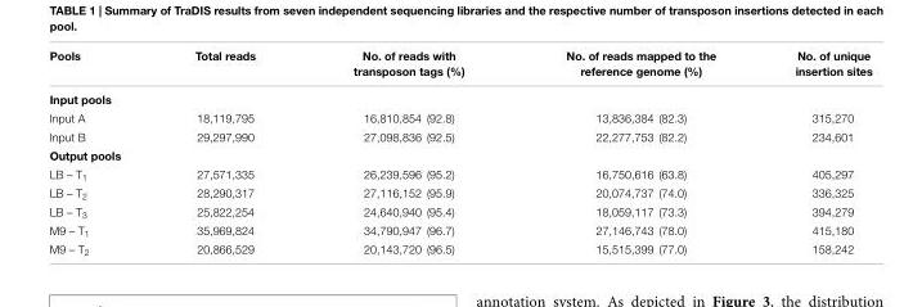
<table><thead><tr><td>Pools</td><td>Total reads</td><td>No. of reads with transposon tags (%)</td><td>No. of reads mapped to the reference genome (%)</td><td>No. of unique insertion sites</td></tr></thead><tbody><tr><td colspan="5">Input pools</td></tr><tr><td>Input A</td><td>18,119,795</td><td>16,810,854 (92.8)</td><td>13,836,384 (82.3)</td><td>315,270</td></tr><tr><td>Input B</td><td>29,297,990</td><td>27,098,836 (92.5)</td><td>22,277,753 (82.2)</td><td>234,601</td></tr><tr><td colspan="5">Output pools</td></tr><tr><td>LB – T<sub>1</sub></td><td>27,571,335</td><td>26,239,596 (95.2)</td><td>16,750,616 (63.8)</td><td>405,297</td></tr><tr><td>LB – T<sub>2</sub></td><td>28,290,317</td><td>27,116,152 (95.9)</td><td>20,074,737 (74.0)</td><td>336,325</td></tr><tr><td>LB – T<sub>3</sub></td><td>25,822,254</td><td>24,640,940 (95.4)</td><td>18,059,117 (73.3)</td><td>394,279</td></tr><tr><td>M9 – T<sub>1</sub></td><td>35,969,824</td><td>34,790,947 (96.7)</td><td>27,146,743 (78.0)</td><td>415,180</td></tr><tr><td>M9 – T<sub>2</sub></td><td>20,866,529</td><td>20,143,720 (96.5)</td><td>15,515,399 (77.0)</td><td>158,242</td></tr></tbody></table>